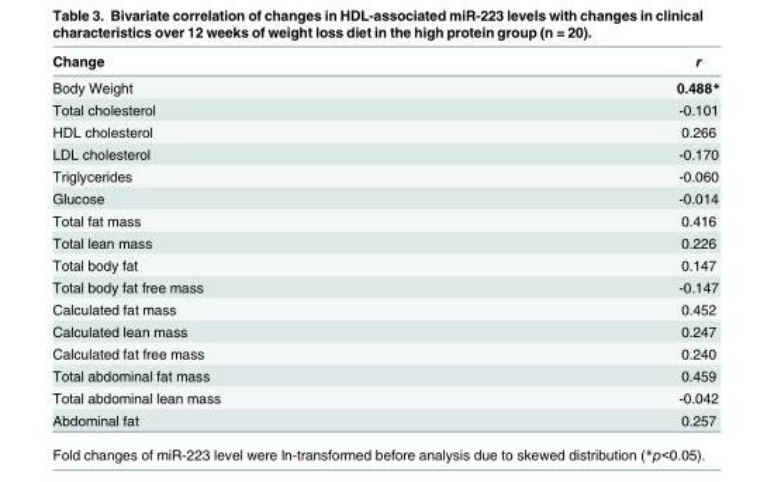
<table><thead><tr><td>Change</td><td>r</td></tr></thead><tbody><tr><td>Body Weight</td><td>0.488*</td></tr><tr><td>Total cholesterol</td><td>-0.101</td></tr><tr><td>HDL cholesterol</td><td>0.266</td></tr><tr><td>LDL cholesterol</td><td>-0.170</td></tr><tr><td>Triglycerides</td><td>-0.060</td></tr><tr><td>Glucose</td><td>-0.014</td></tr><tr><td>Total fat mass</td><td>0.416</td></tr><tr><td>Total lean mass</td><td>0.226</td></tr><tr><td>Total body fat</td><td>0.147</td></tr><tr><td>Total body fat free mass</td><td>-0.147</td></tr><tr><td>Calculated fat mass</td><td>0.452</td></tr><tr><td>Calculated lean mass</td><td>0.247</td></tr><tr><td>Calculated fat free mass</td><td>0.240</td></tr><tr><td>Total abdominal fat mass</td><td>0.459</td></tr><tr><td>Total abdominal lean mass</td><td>-0.042</td></tr><tr><td>Abdominal fat</td><td>0.257</td></tr></tbody></table>